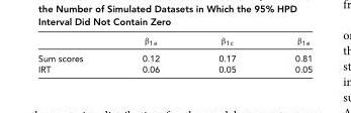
<table><thead><tr><td></td><td>β<sub>1a</sub></td><td>β<sub>1c</sub></td><td>β<sub>1e</sub></td></tr></thead><tbody><tr><td>Sum scores</td><td>0.12</td><td>0.17</td><td>0.81</td></tr><tr><td>IRT</td><td>0.06</td><td>0.05</td><td>0.05</td></tr></tbody></table>